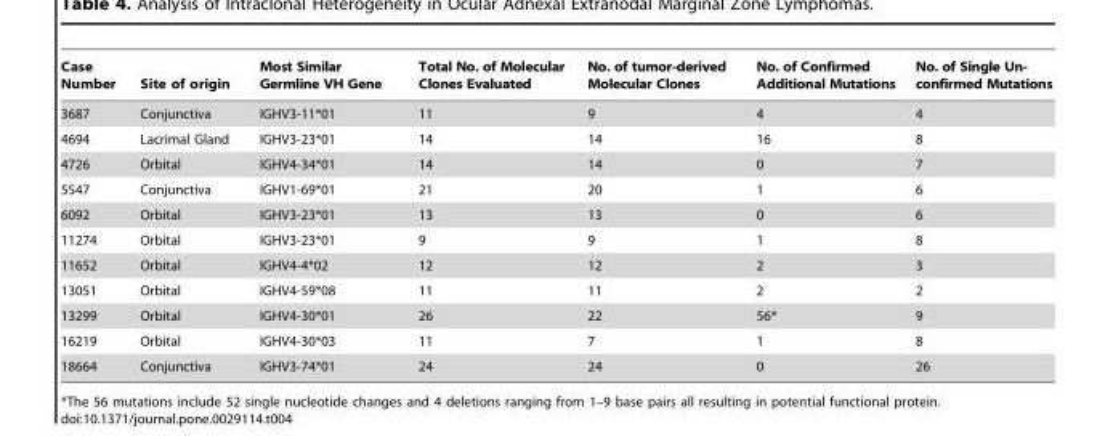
<table><thead><tr><td>Case Number</td><td>Site of origin</td><td>Most Similar Germline VH Gene</td><td>Total No. of Molecular Clones Evaluated</td><td>No. of tumor-derived Molecular Clones</td><td>No. of Confirmed Additional Mutations</td><td>No. of Single Un- confirmed Mutations</td></tr></thead><tbody><tr><td>3687</td><td>Conjunctiva</td><td>IGHV3-11*01</td><td>11</td><td>9</td><td>4</td><td>4</td></tr><tr><td>4694</td><td>Lacrimal Gland</td><td>IGHV3-23*01</td><td>14</td><td>14</td><td>16</td><td>8</td></tr><tr><td>4726</td><td>Orbital</td><td>IGHV4-34*01</td><td>14</td><td>14</td><td>0</td><td>7</td></tr><tr><td>5547</td><td>Conjunctiva</td><td>IGHV1-69*01</td><td>21</td><td>20</td><td>1</td><td>6</td></tr><tr><td>6092</td><td>Orbital</td><td>IGHV3-23*01</td><td>13</td><td>13</td><td>0</td><td>6</td></tr><tr><td>11274</td><td>Orbital</td><td>IGHV3-23*01</td><td>9</td><td>9</td><td>1</td><td>8</td></tr><tr><td>11652</td><td>Orbital</td><td>IGHV4-4*02</td><td>12</td><td>12</td><td>2</td><td>3</td></tr><tr><td>13051</td><td>Orbital</td><td>IGHV4-59*08</td><td>11</td><td>11</td><td>2</td><td>2</td></tr><tr><td>13299</td><td>Orbital</td><td>IGHV4-30*01</td><td>26</td><td>22</td><td>56*</td><td>9</td></tr><tr><td>16219</td><td>Orbital</td><td>IGHV4-30*03</td><td>11</td><td>7</td><td>1</td><td>8</td></tr><tr><td>18664</td><td>Conjunctiva</td><td>IGHV3-74*01</td><td>24</td><td>24</td><td>0</td><td>26</td></tr></tbody></table>